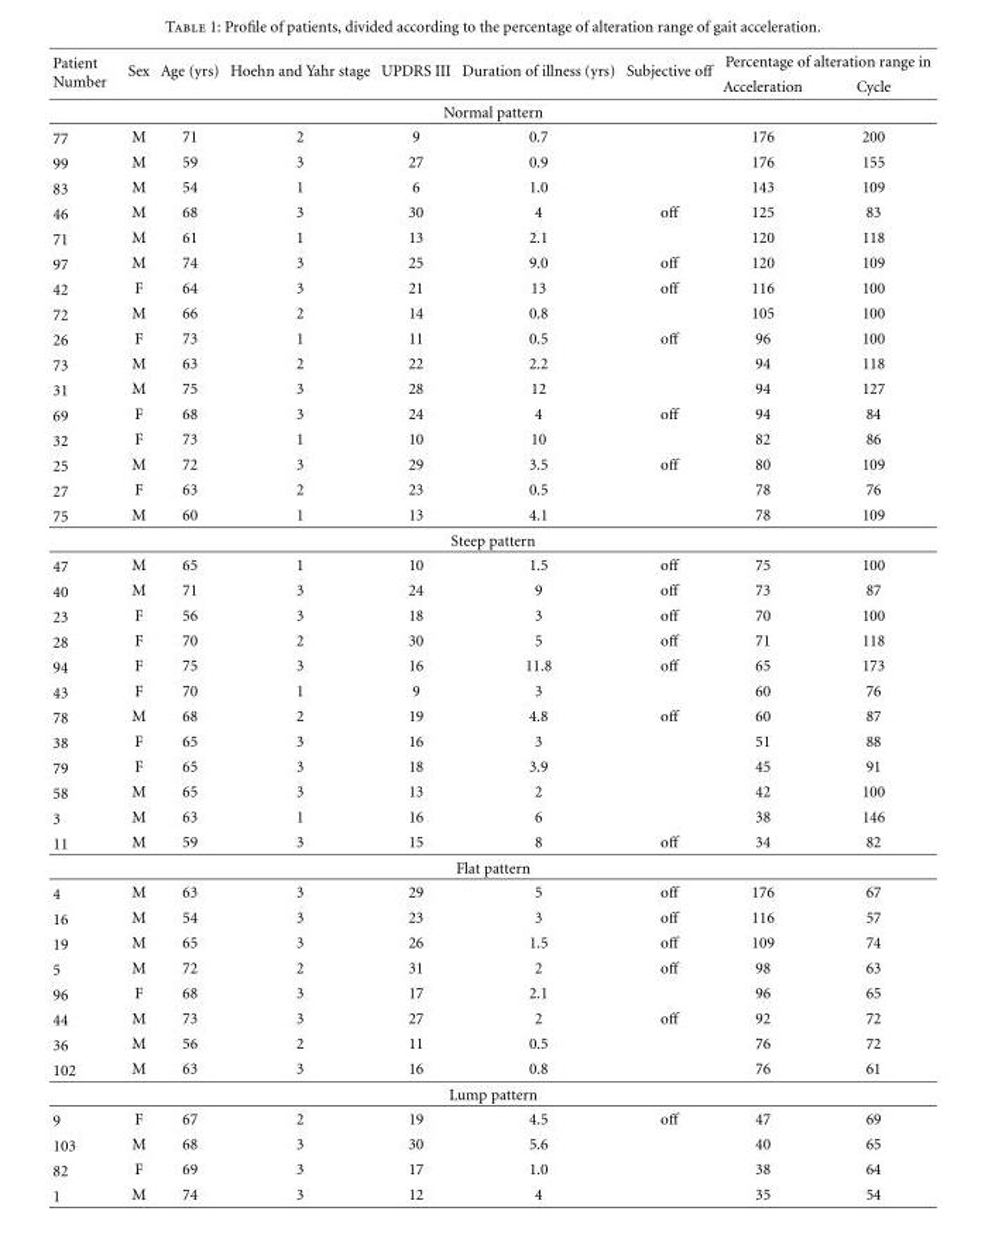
<table><thead><tr><td rowspan="2">Patient Number</td><td rowspan="2">Sex</td><td rowspan="2">Age (yrs)</td><td rowspan="2">Hoehn and Yahr stage</td><td rowspan="2">UPDRS III</td><td rowspan="2">Duration of illness (yrs)</td><td rowspan="2">Subjective off</td><td colspan="2">Percentage of alteration range in</td></tr><tr><td>Acceleration</td><td>Cycle</td></tr></thead><tbody><tr><td colspan="9">Normal pattern</td></tr><tr><td>77</td><td>M</td><td>71</td><td>2</td><td>9</td><td>0.7</td><td></td><td>176</td><td>200</td></tr><tr><td>99</td><td>M</td><td>59</td><td>3</td><td>27</td><td>0.9</td><td></td><td>176</td><td>155</td></tr><tr><td>83</td><td>M</td><td>54</td><td>1</td><td>6</td><td>1.0</td><td></td><td>143</td><td>109</td></tr><tr><td>46</td><td>M</td><td>68</td><td>3</td><td>30</td><td>4</td><td>off</td><td>125</td><td>83</td></tr><tr><td>71</td><td>M</td><td>61</td><td>1</td><td>13</td><td>2.1</td><td></td><td>120</td><td>118</td></tr><tr><td>97</td><td>M</td><td>74</td><td>3</td><td>25</td><td>9.0</td><td>off</td><td>120</td><td>109</td></tr><tr><td>42</td><td>F</td><td>64</td><td>3</td><td>21</td><td>13</td><td>off</td><td>116</td><td>100</td></tr><tr><td>72</td><td>M</td><td>66</td><td>2</td><td>14</td><td>0.8</td><td></td><td>105</td><td>100</td></tr><tr><td>26</td><td>F</td><td>73</td><td>1</td><td>11</td><td>0.5</td><td>off</td><td>96</td><td>100</td></tr><tr><td>73</td><td>M</td><td>63</td><td>2</td><td>22</td><td>2.2</td><td></td><td>94</td><td>118</td></tr><tr><td>31</td><td>M</td><td>75</td><td>3</td><td>28</td><td>12</td><td></td><td>94</td><td>127</td></tr><tr><td>69</td><td>F</td><td>68</td><td>3</td><td>24</td><td>4</td><td>off</td><td>94</td><td>84</td></tr><tr><td>32</td><td>F</td><td>73</td><td>1</td><td>10</td><td>10</td><td></td><td>82</td><td>86</td></tr><tr><td>25</td><td>M</td><td>72</td><td>3</td><td>29</td><td>3.5</td><td>off</td><td>80</td><td>109</td></tr><tr><td>27</td><td>F</td><td>63</td><td>2</td><td>23</td><td>0.5</td><td></td><td>78</td><td>76</td></tr><tr><td>75</td><td>M</td><td>60</td><td>1</td><td>13</td><td>4.1</td><td></td><td>78</td><td>109</td></tr><tr><td colspan="9">Steep pattern</td></tr><tr><td>47</td><td>M</td><td>65</td><td>1</td><td>10</td><td>1.5</td><td>off</td><td>75</td><td>100</td></tr><tr><td>40</td><td>M</td><td>71</td><td>3</td><td>24</td><td>9</td><td>off</td><td>73</td><td>87</td></tr><tr><td>23</td><td>F</td><td>56</td><td>3</td><td>18</td><td>3</td><td>off</td><td>70</td><td>100</td></tr><tr><td>28</td><td>F</td><td>70</td><td>2</td><td>30</td><td>5</td><td>off</td><td>71</td><td>118</td></tr><tr><td>94</td><td>F</td><td>75</td><td>3</td><td>16</td><td>11.8</td><td>off</td><td>65</td><td>173</td></tr><tr><td>43</td><td>F</td><td>70</td><td>1</td><td>9</td><td>3</td><td></td><td>60</td><td>76</td></tr><tr><td>78</td><td>M</td><td>68</td><td>2</td><td>19</td><td>4.8</td><td>off</td><td>60</td><td>87</td></tr><tr><td>38</td><td>F</td><td>65</td><td>3</td><td>16</td><td>3</td><td></td><td>51</td><td>88</td></tr><tr><td>79</td><td>F</td><td>65</td><td>3</td><td>18</td><td>3.9</td><td></td><td>45</td><td>91</td></tr><tr><td>58</td><td>M</td><td>65</td><td>3</td><td>13</td><td>2</td><td></td><td>42</td><td>100</td></tr><tr><td>3</td><td>M</td><td>63</td><td>1</td><td>16</td><td>6</td><td></td><td>38</td><td>146</td></tr><tr><td>11</td><td>M</td><td>59</td><td>3</td><td>15</td><td>8</td><td>off</td><td>34</td><td>82</td></tr><tr><td colspan="9">Flat pattern</td></tr><tr><td>4</td><td>M</td><td>63</td><td>3</td><td>29</td><td>5</td><td>off</td><td>176</td><td>67</td></tr><tr><td>16</td><td>M</td><td>54</td><td>3</td><td>23</td><td>3</td><td>off</td><td>116</td><td>57</td></tr><tr><td>19</td><td>M</td><td>65</td><td>3</td><td>26</td><td>1.5</td><td>off</td><td>109</td><td>74</td></tr><tr><td>5</td><td>M</td><td>72</td><td>2</td><td>31</td><td>2</td><td>off</td><td>98</td><td>63</td></tr><tr><td>96</td><td>F</td><td>68</td><td>3</td><td>17</td><td>2.1</td><td></td><td>96</td><td>65</td></tr><tr><td>44</td><td>M</td><td>73</td><td>3</td><td>27</td><td>2</td><td>off</td><td>92</td><td>72</td></tr><tr><td>36</td><td>M</td><td>56</td><td>2</td><td>11</td><td>0.5</td><td></td><td>76</td><td>72</td></tr><tr><td>102</td><td>M</td><td>63</td><td>3</td><td>16</td><td>0.8</td><td></td><td>76</td><td>61</td></tr><tr><td colspan="9">Lump pattern</td></tr><tr><td>9</td><td>F</td><td>67</td><td>2</td><td>19</td><td>4.5</td><td>off</td><td>47</td><td>69</td></tr><tr><td>103</td><td>M</td><td>68</td><td>3</td><td>30</td><td>5.6</td><td></td><td>40</td><td>65</td></tr><tr><td>82</td><td>F</td><td>69</td><td>3</td><td>17</td><td>1.0</td><td></td><td>38</td><td>64</td></tr><tr><td>1</td><td>M</td><td>74</td><td>3</td><td>12</td><td>4</td><td></td><td>35</td><td>54</td></tr></tbody></table>